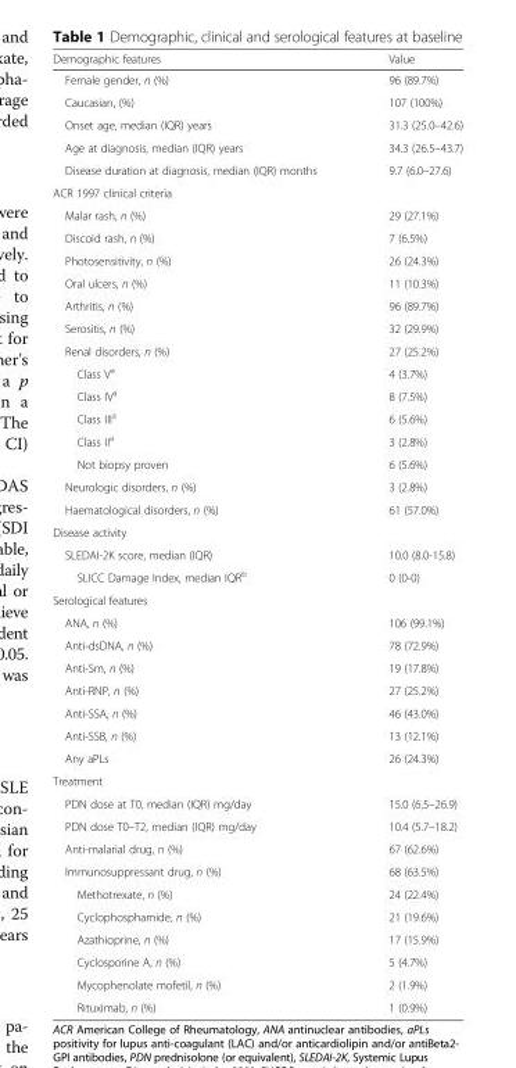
<table><thead><tr><td>Demographic features</td><td>Value</td></tr></thead><tbody><tr><td>Female gender, n (%)</td><td>96 (89.7%)</td></tr><tr><td>Caucasian, (%)</td><td>107 (100%)</td></tr><tr><td>Onset age, median (IQR) years</td><td>31.3 (25.0–42.6)</td></tr><tr><td>Age at diagnosis, median (IQR) years</td><td>34.3 (26.5–43.7)</td></tr><tr><td>Disease duration at diagnosis, median (IQR) months</td><td>9.7 (6.0–27.6)</td></tr><tr><td colspan="2">ACR 1997 clinical criteria</td></tr><tr><td>Malar rash, n (%)</td><td>29 (27.1%)</td></tr><tr><td>Discoid rash, n (%)</td><td>7 (6.5%)</td></tr><tr><td>Photosensitivity, n (%)</td><td>26 (24.3%)</td></tr><tr><td>Oral ulcers, n (%)</td><td>11 (10.3%)</td></tr><tr><td>Arthritis, n (%)</td><td>96 (89.7%)</td></tr><tr><td>Serositis, n (%)</td><td>32 (29.9%)</td></tr><tr><td>Renal disorders, n (%)</td><td>27 (25.2%)</td></tr><tr><td>Class V<sup>a</sup></td><td>4 (3.7%)</td></tr><tr><td>Class IV<sup>a</sup></td><td>8 (7.5%)</td></tr><tr><td>Class III<sup>a</sup></td><td>6 (5.6%)</td></tr><tr><td>Class II<sup>a</sup></td><td>3 (2.8%)</td></tr><tr><td>Not biopsy proven</td><td>6 (5.6%)</td></tr><tr><td>Neurologic disorders, n (%)</td><td>3 (2.8%)</td></tr><tr><td>Haematological disorders, n (%)</td><td>61 (57.0%)</td></tr><tr><td colspan="2">Disease activity</td></tr><tr><td>SLEDAI-2K score, median (IQR)</td><td>10.0 (8.0-15.8)</td></tr><tr><td>SLICC Damage Index, median IQR<sup>b</sup></td><td>0 (0-0)</td></tr><tr><td colspan="2">Serological features</td></tr><tr><td>ANA, n (%)</td><td>106 (99.1%)</td></tr><tr><td>Anti-dsDNA, n (%)</td><td>78 (72.9%)</td></tr><tr><td>Anti-Sm, n (%)</td><td>19 (17.8%)</td></tr><tr><td>Anti-RNP, n (%)</td><td>27 (25.2%)</td></tr><tr><td>Anti-SSA, n (%)</td><td>46 (43.0%)</td></tr><tr><td>Anti-SSB, n (%)</td><td>13 (12.1%)</td></tr><tr><td>Any aPLs</td><td>26 (24.3%)</td></tr><tr><td colspan="2">Treatment</td></tr><tr><td>PDN dose at T0, median (IQR) mg/day</td><td>15.0 (6.5–26.9)</td></tr><tr><td>PDN dose T0–T2, median (IQR) mg/day</td><td>10.4 (5.7–18.2)</td></tr><tr><td>Anti-malarial drug, n (%)</td><td>67 (62.6%)</td></tr><tr><td>Immunosuppressant drug, n (%)</td><td>68 (63.5%)</td></tr><tr><td>Methotrexate, n (%)</td><td>24 (22.4%)</td></tr><tr><td>Cyclophosphamide, n (%)</td><td>21 (19.6%)</td></tr><tr><td>Azathioprine, n (%)</td><td>17 (15.9%)</td></tr><tr><td>Cyclosporine A, n (%)</td><td>5 (4.7%)</td></tr><tr><td>Mycophenolate mofetil, n (%)</td><td>2 (1.9%)</td></tr><tr><td>Rituximab, n (%)</td><td>1 (0.9%)</td></tr></tbody></table>